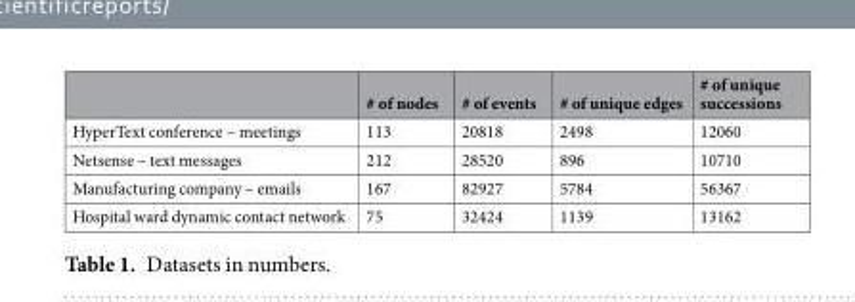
<table><thead><tr><td></td><td># of nodes</td><td># of events</td><td># of unique edges</td><td># of unique successions</td></tr></thead><tbody><tr><td>HyperText conference – meetings</td><td>113</td><td>20818</td><td>2498</td><td>12060</td></tr><tr><td>Netsense – text messages</td><td>212</td><td>28520</td><td>896</td><td>10710</td></tr><tr><td>Manufacturing company – emails</td><td>167</td><td>82927</td><td>5784</td><td>56367</td></tr><tr><td>Hospital ward dynamic contact network</td><td>75</td><td>32424</td><td>1139</td><td>13162</td></tr></tbody></table>